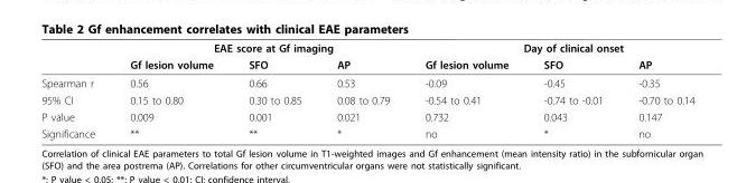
<table><thead><tr><td rowspan="2"></td><td colspan="3">EAE score at Gf imaging</td><td colspan="3">Day of clinical onset</td></tr><tr><td>Gf lesion volume</td><td>SFO</td><td>AP</td><td>Gf lesion volume</td><td>SFO</td><td>AP</td></tr></thead><tbody><tr><td>Spearman r</td><td>0.56</td><td>0.66</td><td>0.53</td><td>-0.09</td><td>-0.45</td><td>-0.35</td></tr><tr><td>95% CI</td><td>0.15 to 0.80</td><td>0.30 to 0.85</td><td>0.08 to 0.79</td><td>-0.54 to 0.41</td><td>-0.74 to -0.01</td><td>-0.70 to 0.14</td></tr><tr><td>P value</td><td>0.009</td><td>0.001</td><td>0.021</td><td>0.732</td><td>0.043</td><td>0.147</td></tr><tr><td>Significance</td><td>**</td><td>**</td><td>*</td><td>no</td><td>*</td><td>no</td></tr></tbody></table>